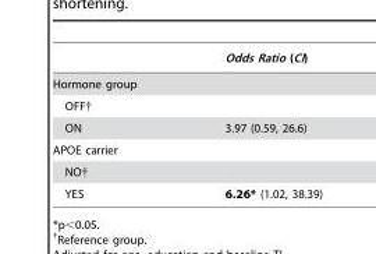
<table><thead><tr><td></td><td>Odds Ratio (CI)</td></tr></thead><tbody><tr><td colspan="2">Hormone group</td></tr><tr><td colspan="2">OFF†</td></tr><tr><td>ON</td><td>3.97 (0.59, 26.6)</td></tr><tr><td colspan="2">APOE carrier</td></tr><tr><td colspan="2">NO†</td></tr><tr><td>YES</td><td>6.26* (1.02, 38.39)</td></tr></tbody></table>